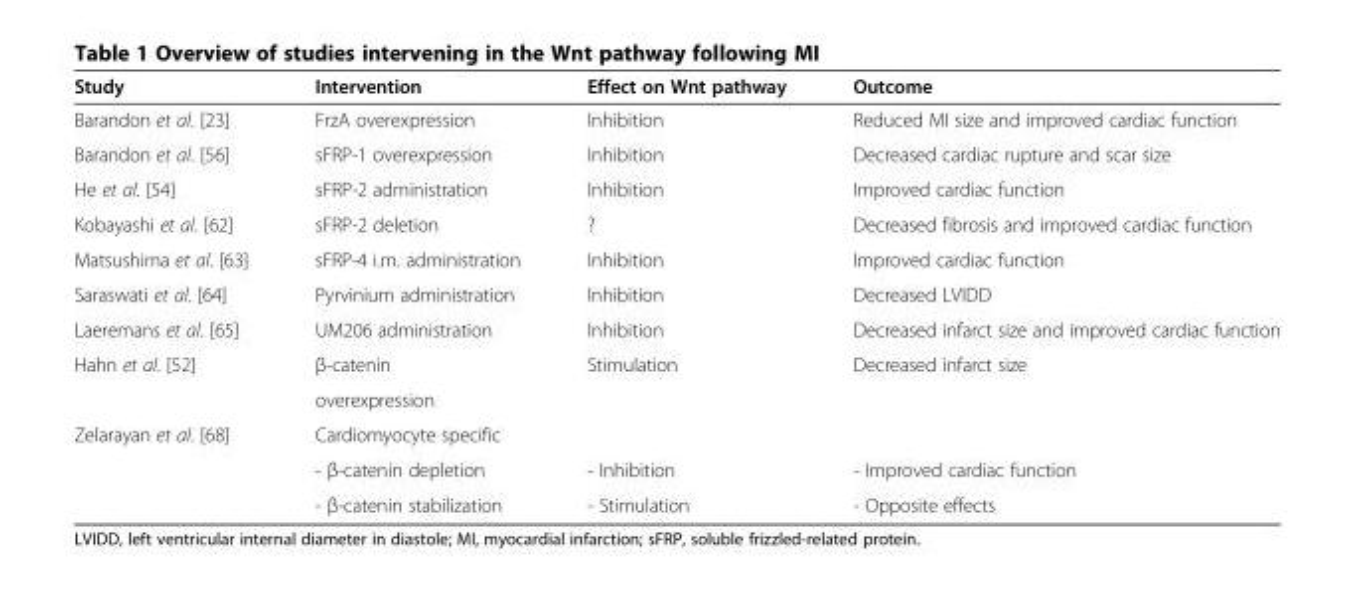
<table><thead><tr><td>Study</td><td>Intervention</td><td>Effect on Wnt pathway</td><td>Outcome</td></tr></thead><tbody><tr><td>Barandon et al. [23]</td><td>FrzA overexpression</td><td>Inhibition</td><td>Reduced MI size and improved cardiac function</td></tr><tr><td>Barandon et al. [56]</td><td>sFRP-1 overexpression</td><td>Inhibition</td><td>Decreased cardiac rupture and scar size</td></tr><tr><td>He et al. [54]</td><td>sFRP-2 administration</td><td>Inhibition</td><td>Improved cardiac function</td></tr><tr><td>Kobayashi et al. [62]</td><td>sFRP-2 deletion</td><td>?</td><td>Decreased fibrosis and improved cardiac function</td></tr><tr><td>Matsushima et al. [63]</td><td>sFRP-4 i.m. administration</td><td>Inhibition</td><td>Improved cardiac function</td></tr><tr><td>Saraswati et al. [64]</td><td>Pyrvinium administration</td><td>Inhibition</td><td>Decreased LVIDD</td></tr><tr><td>Laeremans et al. [65]</td><td>UM206 administration</td><td>Inhibition</td><td>Decreased infarct size and improved cardiac function</td></tr><tr><td rowspan="2">Hahn et al. [52]</td><td>β-catenin</td><td>Stimulation</td><td>Decreased infarct size</td></tr><tr><td>overexpression</td><td></td><td></td></tr><tr><td rowspan="3">Zelarayan et al. [68]</td><td>Cardiomyocyte specific</td><td></td><td></td></tr><tr><td>- β-catenin depletion</td><td>- Inhibition</td><td>- Improved cardiac function</td></tr><tr><td>- β-catenin stabilization</td><td>- Stimulation</td><td>- Opposite effects</td></tr></tbody></table>